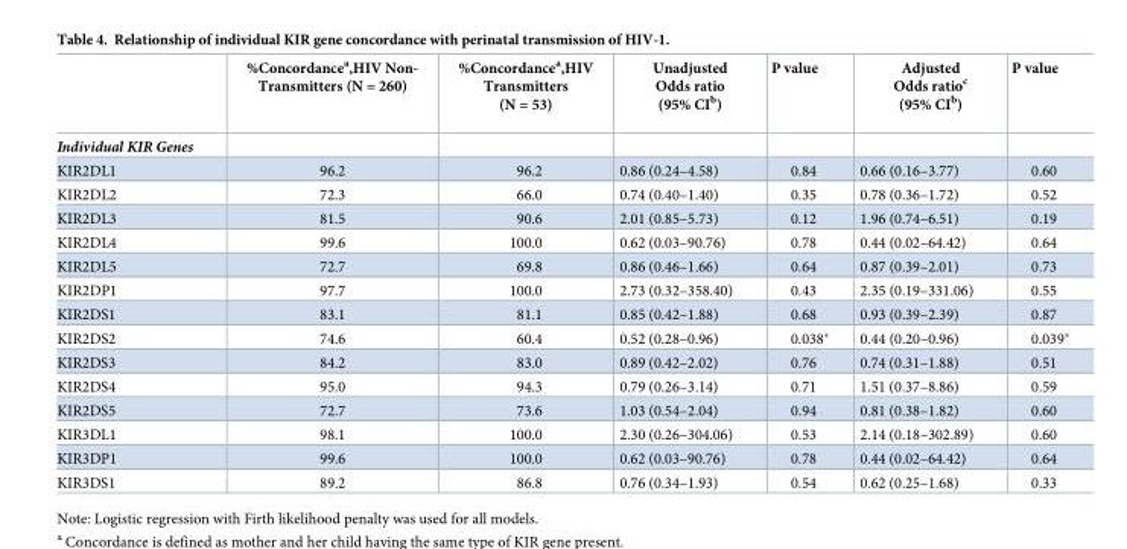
<table><thead><tr><td></td><td>%Concordance<sup>a</sup>,HIV Non- Transmitters (N = 260)</td><td>%Concordance<sup>a</sup>,HIV Transmitters (N = 53)</td><td>Unadjusted Odds ratio (95% CI<sup>b</sup>)</td><td>P value</td><td>Adjusted Odds ratio<sup>c</sup> (95% CI<sup>b</sup>)</td><td>P value</td></tr></thead><tbody><tr><td colspan="7">Individual KIR Genes</td></tr><tr><td>KIR2DL1</td><td>96.2</td><td>96.2</td><td>0.86 (0.24–4.58)</td><td>0.84</td><td>0.66 (0.16–3.77)</td><td>0.60</td></tr><tr><td>KIR2DL2</td><td>72.3</td><td>66.0</td><td>0.74 (0.40–1.40)</td><td>0.35</td><td>0.78 (0.36–1.72)</td><td>0.52</td></tr><tr><td>KIR2DL3</td><td>81.5</td><td>90.6</td><td>2.01 (0.85–5.73)</td><td>0.12</td><td>1.96 (0.74–6.51)</td><td>0.19</td></tr><tr><td>KIR2DL4</td><td>99.6</td><td>100.0</td><td>0.62 (0.03–90.76)</td><td>0.78</td><td>0.44 (0.02–64.42)</td><td>0.64</td></tr><tr><td>KIR2DL5</td><td>72.7</td><td>69.8</td><td>0.86 (0.46–1.66)</td><td>0.64</td><td>0.87 (0.39–2.01)</td><td>0.73</td></tr><tr><td>KIR2DP1</td><td>97.7</td><td>100.0</td><td>2.73 (0.32–358.40)</td><td>0.43</td><td>2.35 (0.19–331.06)</td><td>0.55</td></tr><tr><td>KIR2DS1</td><td>83.1</td><td>81.1</td><td>0.85 (0.42–1.88)</td><td>0.68</td><td>0.93 (0.39–2.39)</td><td>0.87</td></tr><tr><td>KIR2DS2</td><td>74.6</td><td>60.4</td><td>0.52 (0.28–0.96)</td><td>0.038*</td><td>0.44 (0.20–0.96)</td><td>0.039*</td></tr><tr><td>KIR2DS3</td><td>84.2</td><td>83.0</td><td>0.89 (0.42–2.02)</td><td>0.76</td><td>0.74 (0.31–1.88)</td><td>0.51</td></tr><tr><td>KIR2DS4</td><td>95.0</td><td>94.3</td><td>0.79 (0.26–3.14)</td><td>0.71</td><td>1.51 (0.37–8.86)</td><td>0.59</td></tr><tr><td>KIR2DS5</td><td>72.7</td><td>73.6</td><td>1.03 (0.54–2.04)</td><td>0.94</td><td>0.81 (0.38–1.82)</td><td>0.60</td></tr><tr><td>KIR3DL1</td><td>98.1</td><td>100.0</td><td>2.30 (0.26–304.06)</td><td>0.53</td><td>2.14 (0.18–302.89)</td><td>0.60</td></tr><tr><td>KIR3DP1</td><td>99.6</td><td>100.0</td><td>0.62 (0.03–90.76)</td><td>0.78</td><td>0.44 (0.02–64.42)</td><td>0.64</td></tr><tr><td>KIR3DS1</td><td>89.2</td><td>86.8</td><td>0.76 (0.34–1.93)</td><td>0.54</td><td>0.62 (0.25–1.68)</td><td>0.33</td></tr></tbody></table>